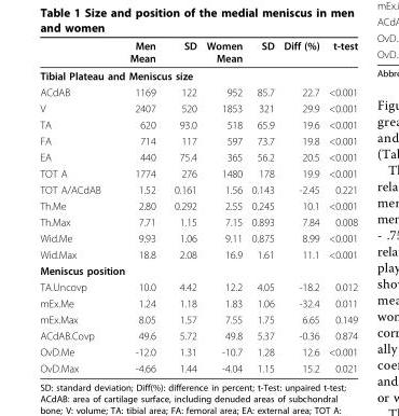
<table><thead><tr><td></td><td>Men Mean</td><td>SD</td><td>Women Mean</td><td>SD</td><td>Diff (%)</td><td>t-test</td></tr></thead><tbody><tr><td colspan="7">Tibial Plateau and Meniscus size</td></tr><tr><td>ACdAB</td><td>1169</td><td>122</td><td>952</td><td>85.7</td><td>22.7</td><td>&lt;0.001</td></tr><tr><td>V</td><td>2407</td><td>520</td><td>1853</td><td>321</td><td>29.9</td><td>&lt;0.001</td></tr><tr><td>TA</td><td>620</td><td>93.0</td><td>518</td><td>65.9</td><td>19.6</td><td>&lt;0.001</td></tr><tr><td>FA</td><td>714</td><td>117</td><td>597</td><td>73.7</td><td>19.8</td><td>&lt;0.001</td></tr><tr><td>EA</td><td>440</td><td>75.4</td><td>365</td><td>56.2</td><td>20.5</td><td>&lt;0.001</td></tr><tr><td>TOT A</td><td>1774</td><td>276</td><td>1480</td><td>178</td><td>19.9</td><td>&lt;0.001</td></tr><tr><td>TOT A/ACdAB</td><td>1.52</td><td>0.161</td><td>1.56</td><td>0.143</td><td>-2.45</td><td>0.221</td></tr><tr><td>Th.Me</td><td>2.80</td><td>0.292</td><td>2.55</td><td>0.245</td><td>10.1</td><td>&lt;0.001</td></tr><tr><td>Th.Max</td><td>7.71</td><td>1.15</td><td>7.15</td><td>0.893</td><td>7.84</td><td>0.008</td></tr><tr><td>Wid.Me</td><td>9.93</td><td>1.06</td><td>9.11</td><td>0.875</td><td>8.99</td><td>&lt;0.001</td></tr><tr><td>Wid.Max</td><td>18.8</td><td>2.08</td><td>16.9</td><td>1.61</td><td>11.1</td><td>&lt;0.001</td></tr><tr><td colspan="7">Meniscus position</td></tr><tr><td>TA.Uncovp</td><td>10.0</td><td>4.42</td><td>12.2</td><td>4.05</td><td>-18.2</td><td>0.012</td></tr><tr><td>mEx.Me</td><td>1.24</td><td>1.18</td><td>1.83</td><td>1.06</td><td>-32.4</td><td>0.011</td></tr><tr><td>mEx.Max</td><td>8.05</td><td>1.57</td><td>7.55</td><td>1.75</td><td>6.65</td><td>0.149</td></tr><tr><td>ACdAB.Covp</td><td>49.6</td><td>5.72</td><td>49.8</td><td>5.37</td><td>-0.36</td><td>0.874</td></tr><tr><td>OvD.Me</td><td>-12.0</td><td>1.31</td><td>-10.7</td><td>1.28</td><td>12.6</td><td>&lt;0.001</td></tr><tr><td>OvD.Max</td><td>-4.66</td><td>1.44</td><td>-4.04</td><td>1.15</td><td>15.2</td><td>0.021</td></tr></tbody></table>